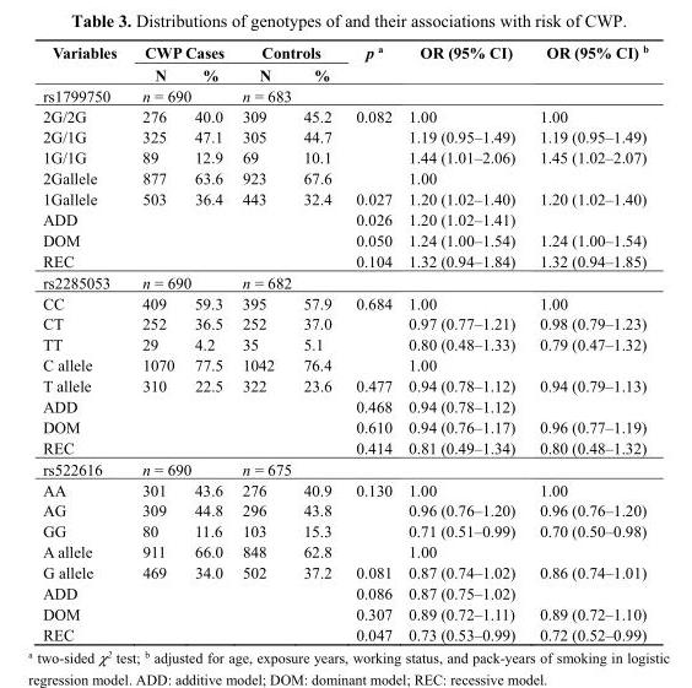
<table><thead><tr><td rowspan="2">Variables</td><td colspan="2">CWP Cases</td><td colspan="2">Controls</td><td rowspan="2">p <sup>a</sup></td><td rowspan="2">OR (95% CI)</td><td rowspan="2">OR (95% CI) <sup>b</sup></td></tr><tr><td>N</td><td>%</td><td>N</td><td>%</td></tr></thead><tbody><tr><td>rs1799750</td><td colspan="2">n = 690</td><td colspan="2">n = 683</td><td></td><td></td><td></td></tr><tr><td>2G/2G</td><td>276</td><td>40.0</td><td>309</td><td>45.2</td><td>0.082</td><td>1.00</td><td>1.00</td></tr><tr><td>2G/1G</td><td>325</td><td>47.1</td><td>305</td><td>44.7</td><td></td><td>1.19 (0.95–1.49)</td><td>1.19 (0.95–1.49)</td></tr><tr><td>1G/1G</td><td>89</td><td>12.9</td><td>69</td><td>10.1</td><td></td><td>1.44 (1.01–2.06)</td><td>1.45 (1.02–2.07)</td></tr><tr><td>2Gallele</td><td>877</td><td>63.6</td><td>923</td><td>67.6</td><td></td><td>1.00</td><td></td></tr><tr><td>1Gallele</td><td>503</td><td>36.4</td><td>443</td><td>32.4</td><td>0.027</td><td>1.20 (1.02–1.40)</td><td>1.20 (1.02–1.40)</td></tr><tr><td>ADD</td><td></td><td></td><td></td><td></td><td>0.026</td><td>1.20 (1.02–1.41)</td><td></td></tr><tr><td>DOM</td><td></td><td></td><td></td><td></td><td>0.050</td><td>1.24 (1.00–1.54)</td><td>1.24 (1.00–1.54)</td></tr><tr><td>REC</td><td></td><td></td><td></td><td></td><td>0.104</td><td>1.32 (0.94–1.84)</td><td>1.32 (0.94–1.85)</td></tr><tr><td>rs2285053</td><td colspan="2">n = 690</td><td colspan="2">n = 682</td><td></td><td></td><td></td></tr><tr><td>CC</td><td>409</td><td>59.3</td><td>395</td><td>57.9</td><td>0.684</td><td>1.00</td><td>1.00</td></tr><tr><td>CT</td><td>252</td><td>36.5</td><td>252</td><td>37.0</td><td></td><td>0.97 (0.77–1.21)</td><td>0.98 (0.79–1.23)</td></tr><tr><td>TT</td><td>29</td><td>4.2</td><td>35</td><td>5.1</td><td></td><td>0.80 (0.48–1.33)</td><td>0.79 (0.47–1.32)</td></tr><tr><td>C allele</td><td>1070</td><td>77.5</td><td>1042</td><td>76.4</td><td></td><td>1.00</td><td></td></tr><tr><td>T allele</td><td>310</td><td>22.5</td><td>322</td><td>23.6</td><td>0.477</td><td>0.94 (0.78–1.12)</td><td>0.94 (0.79–1.13)</td></tr><tr><td>ADD</td><td></td><td></td><td></td><td></td><td>0.468</td><td>0.94 (0.78–1.12)</td><td></td></tr><tr><td>DOM</td><td></td><td></td><td></td><td></td><td>0.610</td><td>0.94 (0.76–1.17)</td><td>0.96 (0.77–1.19)</td></tr><tr><td>REC</td><td></td><td></td><td></td><td></td><td>0.414</td><td>0.81 (0.49–1.34)</td><td>0.80 (0.48–1.32)</td></tr><tr><td>rs522616</td><td colspan="2">n = 690</td><td colspan="2">n = 675</td><td></td><td></td><td></td></tr><tr><td>AA</td><td>301</td><td>43.6</td><td>276</td><td>40.9</td><td>0.130</td><td>1.00</td><td>1.00</td></tr><tr><td>AG</td><td>309</td><td>44.8</td><td>296</td><td>43.8</td><td></td><td>0.96 (0.76–1.20)</td><td>0.96 (0.76–1.20)</td></tr><tr><td>GG</td><td>80</td><td>11.6</td><td>103</td><td>15.3</td><td></td><td>0.71 (0.51–0.99)</td><td>0.70 (0.50–0.98)</td></tr><tr><td>A allele</td><td>911</td><td>66.0</td><td>848</td><td>62.8</td><td></td><td>1.00</td><td></td></tr><tr><td>G allele</td><td>469</td><td>34.0</td><td>502</td><td>37.2</td><td>0.081</td><td>0.87 (0.74–1.02)</td><td>0.86 (0.74–1.01)</td></tr><tr><td>ADD</td><td></td><td></td><td></td><td></td><td>0.086</td><td>0.87 (0.75–1.02)</td><td></td></tr><tr><td>DOM</td><td></td><td></td><td></td><td></td><td>0.307</td><td>0.89 (0.72–1.11)</td><td>0.89 (0.72–1.10)</td></tr><tr><td>REC</td><td></td><td></td><td></td><td></td><td>0.047</td><td>0.73 (0.53–0.99)</td><td>0.72 (0.52–0.99)</td></tr></tbody></table>